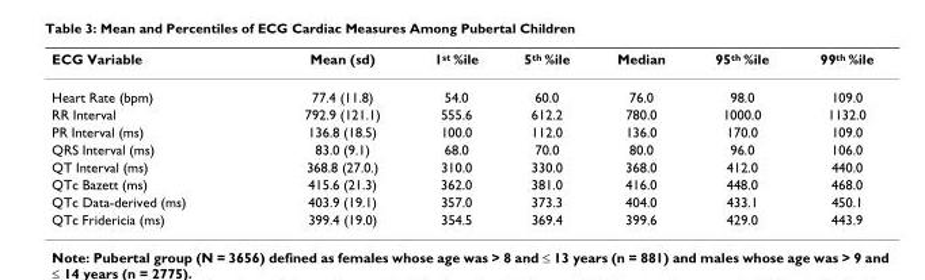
<table><thead><tr><td>ECG Variable</td><td>Mean (sd)</td><td>1<sup>st</sup> %ile</td><td>5<sup>th</sup> %ile</td><td>Median</td><td>95<sup>th</sup> %ile</td><td>99<sup>th</sup> %ile</td></tr></thead><tbody><tr><td>Heart Rate (bpm)</td><td>77.4 (11.8)</td><td>54.0</td><td>60.0</td><td>76.0</td><td>98.0</td><td>109.0</td></tr><tr><td>RR Interval</td><td>792.9 (121.1)</td><td>555.6</td><td>612.2</td><td>780.0</td><td>1000.0</td><td>1132.0</td></tr><tr><td>PR Interval (ms)</td><td>136.8 (18.5)</td><td>100.0</td><td>112.0</td><td>136.0</td><td>170.0</td><td>109.0</td></tr><tr><td>QRS Interval (ms)</td><td>83.0 (9.1)</td><td>68.0</td><td>70.0</td><td>80.0</td><td>96.0</td><td>106.0</td></tr><tr><td>QT Interval (ms)</td><td>368.8 (27.0.)</td><td>310.0</td><td>330.0</td><td>368.0</td><td>412.0</td><td>440.0</td></tr><tr><td>QTc Bazett (ms)</td><td>415.6 (21.3)</td><td>362.0</td><td>381.0</td><td>416.0</td><td>448.0</td><td>468.0</td></tr><tr><td>QTc Data-derived (ms)</td><td>403.9 (19.1)</td><td>357.0</td><td>373.3</td><td>404.0</td><td>433.1</td><td>450.1</td></tr><tr><td>QTc Fridericia (ms)</td><td>399.4 (19.0)</td><td>354.5</td><td>369.4</td><td>399.6</td><td>429.0</td><td>443.9</td></tr></tbody></table>